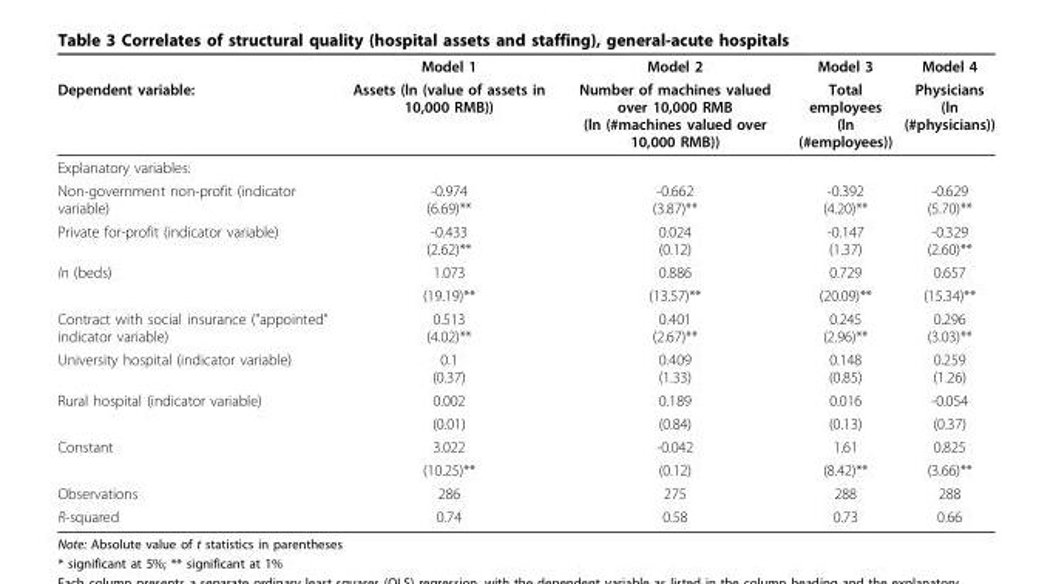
<table><thead><tr><td rowspan="2">Dependent variable:</td><td rowspan="2">Model 1 Assets (ln (value of assets in 10,000 RMB))</td><td rowspan="2">Model 2 Number of machines valued over 10,000 RMB (ln (#machines valued over 10,000 RMB))</td><td rowspan="2">Model 3 Total employees (ln (#employees))</td><td rowspan="2">Model 4 Physicians (ln (#physicians))</td></tr><tr></tr></thead><tbody><tr><td colspan="5">Explanatory variables:</td></tr><tr><td>Non-government non-profit (indicator variable)</td><td>-0.974 (6.69)**</td><td>-0.662 (3.87)**</td><td>-0.392 (4.20)**</td><td>-0.629 (5.70)**</td></tr><tr><td>Private for-profit (indicator variable)</td><td>-0.433 (2.62)**</td><td>0.024 (0.12)</td><td>-0.147 (1.37)</td><td>-0.329 (2.60)**</td></tr><tr><td rowspan="2">ln (beds)</td><td>1.073</td><td>0.886</td><td>0.729</td><td>0.657</td></tr><tr><td>(19.19)**</td><td>(13.57)**</td><td>(20.09)**</td><td>(15.34)**</td></tr><tr><td>Contract with social insurance (&quot;appointed” indicator variable)</td><td>0.513 (4.02)**</td><td>0.401 (2.67)**</td><td>0.245 (2.96)**</td><td>0.296 (3.03)**</td></tr><tr><td>University hospital (indicator variable)</td><td>0.1 (0.37)</td><td>0.409 (1.33)</td><td>0.148 (0.85)</td><td>0.259 (1.26)</td></tr><tr><td rowspan="2">Rural hospital (indicator variable)</td><td>0.002</td><td>0.189</td><td>0.016</td><td>-0.054</td></tr><tr><td>(0.01)</td><td>(0.84)</td><td>(0.13)</td><td>(0.37)</td></tr><tr><td rowspan="2">Constant</td><td>3.022</td><td>-0.042</td><td>1.61</td><td>0.825</td></tr><tr><td>(10.25)**</td><td>(0.12)</td><td>(8.42)**</td><td>(3.66)**</td></tr><tr><td>Observations</td><td>286</td><td>275</td><td>288</td><td>288</td></tr><tr><td>R-squared</td><td>0.74</td><td>0.58</td><td>0.73</td><td>0.66</td></tr></tbody></table>